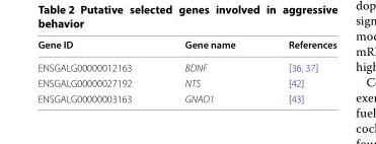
<table><thead><tr><td>Gene ID</td><td>Gene name</td><td>References</td></tr></thead><tbody><tr><td>ENSGALG00000012163</td><td>BDNF</td><td>[36, 37]</td></tr><tr><td>ENSGALG00000027192</td><td>NTS</td><td>[42]</td></tr><tr><td>ENSGALG00000003163</td><td>GNAO1</td><td>[43]</td></tr></tbody></table>